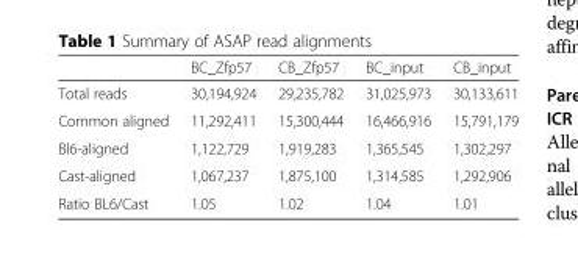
<table><thead><tr><td></td><td>BC_Zfp57</td><td>CB_Zfp57</td><td>BC_input</td><td>CB_input</td></tr></thead><tbody><tr><td>Total reads</td><td>30,194,924</td><td>29,235,782</td><td>31,025,973</td><td>30,133,611</td></tr><tr><td>Common aligned</td><td>11,292,411</td><td>15,300,444</td><td>16,466,916</td><td>15,791,179</td></tr><tr><td>Bl6-aligned</td><td>1,122,729</td><td>1,919,283</td><td>1,365,545</td><td>1,302,297</td></tr><tr><td>Cast-aligned</td><td>1,067,237</td><td>1,875,100</td><td>1,314,585</td><td>1,292,906</td></tr><tr><td>Ratio BL6/Cast</td><td>1.05</td><td>1.02</td><td>1.04</td><td>1.01</td></tr></tbody></table>